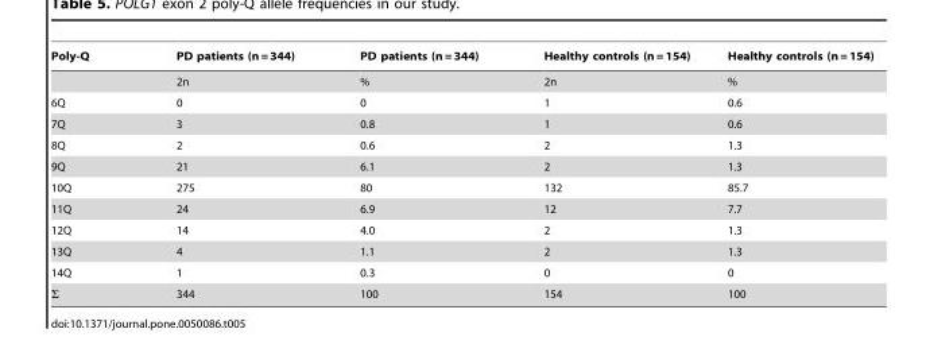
<table><thead><tr><td>Poly-Q</td><td>PD patients (n = 344)</td><td>PD patients (n = 344)</td><td>Healthy controls (n = 154)</td><td>Healthy controls (n = 154)</td></tr></thead><tbody><tr><td></td><td>2n</td><td>%</td><td>2n</td><td>%</td></tr><tr><td>6Q</td><td>0</td><td>0</td><td>1</td><td>0.6</td></tr><tr><td>7Q</td><td>3</td><td>0.8</td><td>1</td><td>0.6</td></tr><tr><td>8Q</td><td>2</td><td>0.6</td><td>2</td><td>1.3</td></tr><tr><td>9Q</td><td>21</td><td>6.1</td><td>2</td><td>1.3</td></tr><tr><td>10Q</td><td>275</td><td>80</td><td>132</td><td>85.7</td></tr><tr><td>11Q</td><td>24</td><td>6.9</td><td>12</td><td>7.7</td></tr><tr><td>12Q</td><td>14</td><td>4.0</td><td>2</td><td>1.3</td></tr><tr><td>13Q</td><td>4</td><td>1.1</td><td>2</td><td>1.3</td></tr><tr><td>14Q</td><td>1</td><td>0.3</td><td>0</td><td>0</td></tr><tr><td>Σ</td><td>344</td><td>100</td><td>154</td><td>100</td></tr></tbody></table>